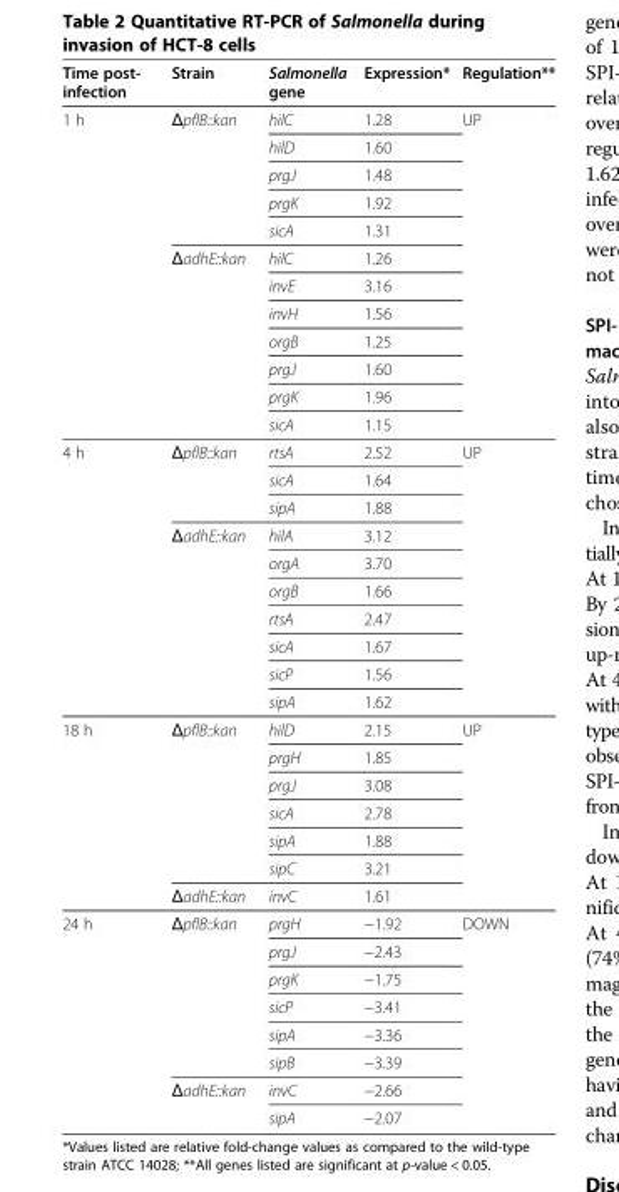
<table><thead><tr><td>Time post- infection</td><td>Strain</td><td>Salmonella gene</td><td>Expression*</td><td>Regulation**</td></tr></thead><tbody><tr><td rowspan="12">1 h</td><td rowspan="5">ΔpflB::kan</td><td>hilC</td><td>1.28</td><td rowspan="12">UP</td></tr><tr><td>hilD</td><td>1.60</td></tr><tr><td>prgJ</td><td>1.48</td></tr><tr><td>prgK</td><td>1.92</td></tr><tr><td>sicA</td><td>1.31</td></tr><tr><td rowspan="7">ΔadhE::kan</td><td>hilC</td><td>1.26</td></tr><tr><td>invE</td><td>3.16</td></tr><tr><td>invH</td><td>1.56</td></tr><tr><td>orgB</td><td>1.25</td></tr><tr><td>prgJ</td><td>1.60</td></tr><tr><td>prgK</td><td>1.96</td></tr><tr><td>sicA</td><td>1.15</td></tr><tr><td rowspan="10">4 h</td><td rowspan="3">ΔpflB::kan</td><td>rtsA</td><td>2.52</td><td>UP</td></tr><tr><td>sicA</td><td>1.64</td><td></td></tr><tr><td>sipA</td><td>1.88</td><td></td></tr><tr><td rowspan="7">ΔadhE::kan</td><td>hilA</td><td>3.12</td><td></td></tr><tr><td>orgA</td><td>3.70</td><td></td></tr><tr><td>orgB</td><td>1.66</td><td></td></tr><tr><td>rtsA</td><td>2.47</td><td></td></tr><tr><td>sicA</td><td>1.67</td><td></td></tr><tr><td>sicP</td><td>1.56</td><td></td></tr><tr><td>sipA</td><td>1.62</td><td></td></tr><tr><td rowspan="7">18 h</td><td rowspan="6">ΔpflB::kan</td><td>hilD</td><td>2.15</td><td rowspan="7">UP</td></tr><tr><td>prgH</td><td>1.85</td></tr><tr><td>prgJ</td><td>3.08</td></tr><tr><td>sicA</td><td>2.78</td></tr><tr><td>sipA</td><td>1.88</td></tr><tr><td>sipC</td><td>3.21</td></tr><tr><td>ΔadhE::kan</td><td>invC</td><td>1.61</td></tr><tr><td rowspan="8">24 h</td><td rowspan="6">ΔpflB::kan</td><td>prgH</td><td>−1.92</td><td rowspan="8">DOWN</td></tr><tr><td>prgJ</td><td>−2.43</td></tr><tr><td>prgK</td><td>−1.75</td></tr><tr><td>sicP</td><td>−3.41</td></tr><tr><td>sipA</td><td>−3.36</td></tr><tr><td>sipB</td><td>−3.39</td></tr><tr><td rowspan="2">ΔadhE::kan</td><td>invC</td><td>−2.66</td></tr><tr><td>sipA</td><td>−2.07</td></tr></tbody></table>